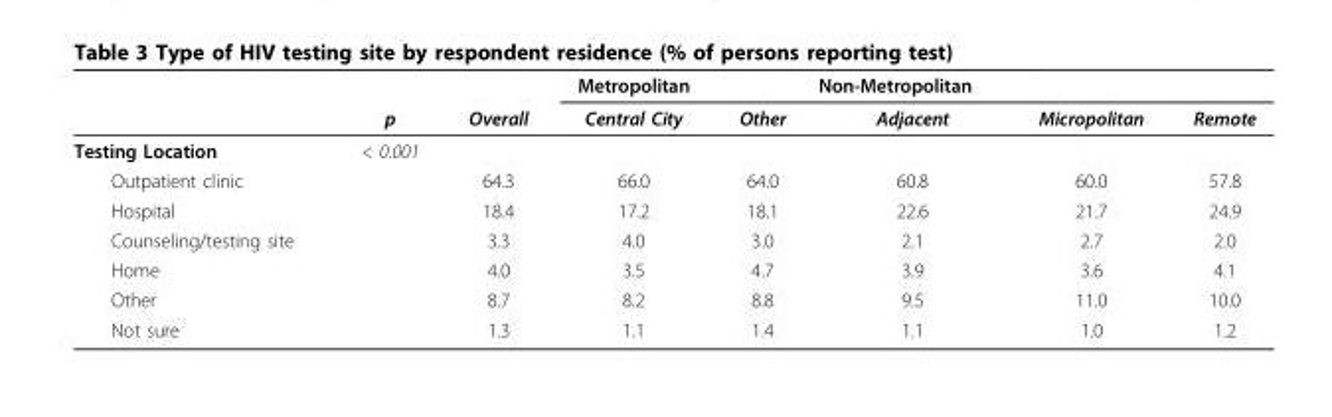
<table><thead><tr><td></td><td></td><td></td><td>Metropolitan</td><td></td><td>Non-Metropolitan</td><td></td><td></td></tr></thead><tbody><tr><td></td><td>p</td><td>Overall</td><td>Central City</td><td>Other</td><td>Adjacent</td><td>Micropolitan</td><td>Remote</td></tr><tr><td>Testing Location</td><td>&lt; 0.001</td><td></td><td></td><td></td><td></td><td></td><td></td></tr><tr><td>Outpatient clinic</td><td></td><td>64.3</td><td>66.0</td><td>64.0</td><td>60.8</td><td>60.0</td><td>57.8</td></tr><tr><td>Hospital</td><td></td><td>18.4</td><td>17.2</td><td>18.1</td><td>22.6</td><td>21.7</td><td>24.9</td></tr><tr><td>Counseling/testing site</td><td></td><td>3.3</td><td>4.0</td><td>3.0</td><td>2.1</td><td>2.7</td><td>2.0</td></tr><tr><td>Home</td><td></td><td>4.0</td><td>3.5</td><td>4.7</td><td>3.9</td><td>3.6</td><td>4.1</td></tr><tr><td>Other</td><td></td><td>8.7</td><td>8.2</td><td>8.8</td><td>9.5</td><td>11.0</td><td>10.0</td></tr><tr><td>Not sure</td><td></td><td>1.3</td><td>1.1</td><td>1.4</td><td>1.1</td><td>1.0</td><td>1.2</td></tr></tbody></table>